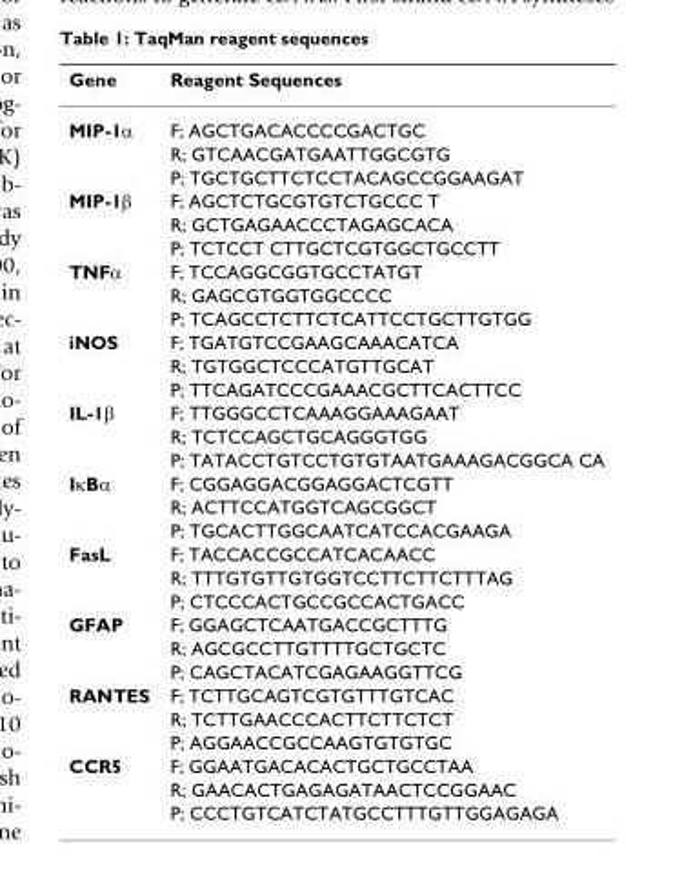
<table><thead><tr><td>Gene</td><td>Reagent Sequences</td></tr></thead><tbody><tr><td rowspan="3">MIP-1α</td><td>F; AGCTGACACCCCGACTGC</td></tr><tr><td>R; GTCAACGATGAATTGGCGTG</td></tr><tr><td>P; TGCTGCTTCTCCTACAGCCGGAAGAT</td></tr><tr><td rowspan="3">MIP-1β</td><td>F; AGCTCTGCGTGTCTGCCC T</td></tr><tr><td>R; GCTGAGAACCCTAGAGCACA</td></tr><tr><td>P; TCTCCT CTTGCTCGTGGCTGCCTT</td></tr><tr><td rowspan="3">TNFα</td><td>F; TCCAGGCGGTGCCTATGT</td></tr><tr><td>R; GAGCGTGGTGGCCCC</td></tr><tr><td>P; TCAGCCTCTTCTCATTCCTGCTTGTGG</td></tr><tr><td rowspan="3">iNOS</td><td>F; TGATGTCCGAAGCAAACATCA</td></tr><tr><td>R; TGTGGCTCCCATGTTGCAT</td></tr><tr><td>P; TTCAGATCCCGAAACGCTTCACTTCC</td></tr><tr><td rowspan="3">IL-1β</td><td>F; TTGGGCCTCAAAGGAAAGAAT</td></tr><tr><td>R; TCTCCAGCTGCAGGGTGG</td></tr><tr><td>P; TATACCTGTCCTGTGTAATGAAAGACGGCA CA</td></tr><tr><td rowspan="3">IκBα</td><td>F; CGGAGGACGGAGGACTCGTT</td></tr><tr><td>R; ACTTCCATGGTCAGCGGCT</td></tr><tr><td>P; TGCACTTGGCAATCATCCACGAAGA</td></tr><tr><td rowspan="3">FasL</td><td>F; TACCACCGCCATCACAACC</td></tr><tr><td>R; TTTGTGTTGTGGTCCTTCTTCTTTAG</td></tr><tr><td>P; CTCCCACTGCCGCCACTGACC</td></tr><tr><td rowspan="3">GFAP</td><td>F; GGAGCTCAATGACCGCTTTG</td></tr><tr><td>R; AGCGCCTTGTTTTGCTGCTC</td></tr><tr><td>P; CAGCTACATCGAGAAGGTTCG</td></tr><tr><td rowspan="3">RANTES</td><td>F; TCTTGCAGTCGTGTTTGTCAC</td></tr><tr><td>R; TCTTGAACCCACTTCTTCTCT</td></tr><tr><td>P; AGGAACCGCCAAGTGTGTGC</td></tr><tr><td rowspan="3">CCR5</td><td>F; GGAATGACACACTGCTGCCTAA</td></tr><tr><td>R; GAACACTGAGAGATAACTCCGGAAC</td></tr><tr><td>P; CCCTGTCATCTATGCCTTTGTTGGAGAGA</td></tr></tbody></table>